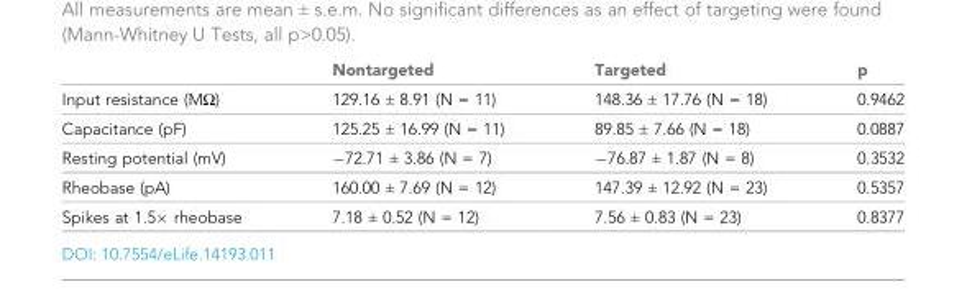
<table><thead><tr><td></td><td>Nontargeted</td><td>Targeted</td><td>p</td></tr></thead><tbody><tr><td>Input resistance (MΩ)</td><td>129.16 ± 8.91 (N = 11)</td><td>148.36 ± 17.76 (N = 18)</td><td>0.9462</td></tr><tr><td>Capacitance (pF)</td><td>125.25 ± 16.99 (N = 11)</td><td>89.85 ± 7.66 (N = 18)</td><td>0.0887</td></tr><tr><td>Resting potential (mV)</td><td>−72.71 ± 3.86 (N = 7)</td><td>−76.87 ± 1.87 (N = 8)</td><td>0.3532</td></tr><tr><td>Rheobase (pA)</td><td>160.00 ± 7.69 (N = 12)</td><td>147.39 ± 12.92 (N = 23)</td><td>0.5357</td></tr><tr><td>Spikes at 1.5× rheobase</td><td>7.18 ± 0.52 (N = 12)</td><td>7.56 ± 0.83 (N = 23)</td><td>0.8377</td></tr></tbody></table>